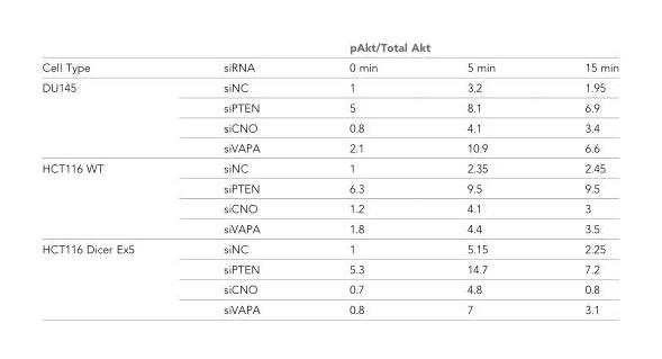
<table><thead><tr><td rowspan="2">Cell Type</td><td rowspan="2">siRNA</td><td colspan="3">pAkt/Total Akt</td></tr><tr><td>0 min</td><td>5 min</td><td>15 min</td></tr></thead><tbody><tr><td rowspan="4">DU145</td><td>siNC</td><td>1</td><td>3.2</td><td>1.95</td></tr><tr><td>siPTEN</td><td>5</td><td>8.1</td><td>6.9</td></tr><tr><td>siCNO</td><td>0.8</td><td>4.1</td><td>3.4</td></tr><tr><td>siVAPA</td><td>2.1</td><td>10.9</td><td>6.6</td></tr><tr><td rowspan="4">HCT116 WT</td><td>siNC</td><td>1</td><td>2.35</td><td>2.45</td></tr><tr><td>siPTEN</td><td>6.3</td><td>9.5</td><td>9.5</td></tr><tr><td>siCNO</td><td>1.2</td><td>4.1</td><td>3</td></tr><tr><td>siVAPA</td><td>1.8</td><td>4.4</td><td>3.5</td></tr><tr><td rowspan="4">HCT116 Dicer Ex5</td><td>siNC</td><td>1</td><td>5.15</td><td>2.25</td></tr><tr><td>siPTEN</td><td>5.3</td><td>14.7</td><td>7.2</td></tr><tr><td>siCNO</td><td>0.7</td><td>4.8</td><td>0.8</td></tr><tr><td>siVAPA</td><td>0.8</td><td>7</td><td>3.1</td></tr></tbody></table>